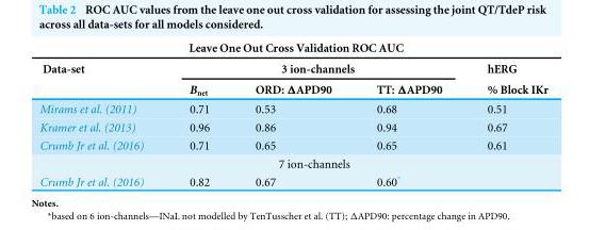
<table><thead><tr><td colspan="5">Leave One Out Cross Validation ROC AUC</td></tr><tr><td rowspan="2">Data-set</td><td colspan="3">3 ion-channels</td><td rowspan="2">hERG % Block IKr</td></tr><tr><td>B<sub>net</sub></td><td>ORD: ΔAPD90</td><td>TT: ΔAPD90</td></tr></thead><tbody><tr><td>Mirams et al. (2011)</td><td>0.71</td><td>0.53</td><td>0.68</td><td>0.51</td></tr><tr><td>Kramer et al. (2013)</td><td>0.96</td><td>0.86</td><td>0.94</td><td>0.67</td></tr><tr><td rowspan="2">Crumb Jr et al. (2016)</td><td>0.71</td><td>0.65</td><td>0.65</td><td>0.61</td></tr><tr><td colspan="3">7 ion-channels</td><td></td></tr><tr><td>Crumb Jr et al. (2016)</td><td>0.82</td><td>0.67</td><td>0.60*</td><td></td></tr></tbody></table>